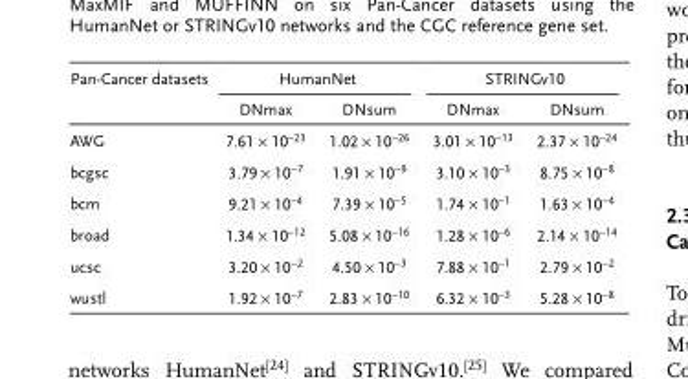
<table><thead><tr><td rowspan="2">Pan-Cancer datasets</td><td colspan="2">HumanNet</td><td colspan="2">STRINGv10</td></tr><tr><td>DNmax</td><td>DNsum</td><td>DNmax</td><td>DNsum</td></tr></thead><tbody><tr><td>AWG</td><td>7.61 × 10<sup>−23</sup></td><td>1.02 × 10<sup>−26</sup></td><td>3.01 × 10<sup>−13</sup></td><td>2.37 × 10<sup>−24</sup></td></tr><tr><td>bcgsc</td><td>3.79 × 10<sup>−7</sup></td><td>1.91 × 10<sup>−9</sup></td><td>3.10 × 10<sup>−3</sup></td><td>8.75 × 10<sup>−8</sup></td></tr><tr><td>bcm</td><td>9.21 × 10<sup>−4</sup></td><td>7.39 × 10<sup>−5</sup></td><td>1.74 × 10<sup>−1</sup></td><td>1.63 × 10<sup>−4</sup></td></tr><tr><td>broad</td><td>1.34 × 10<sup>−12</sup></td><td>5.08 × 10<sup>−16</sup></td><td>1.28 × 10<sup>−6</sup></td><td>2.14 × 10<sup>−14</sup></td></tr><tr><td>ucsc</td><td>3.20 × 10<sup>−2</sup></td><td>4.50 × 10<sup>−3</sup></td><td>7.88 × 10<sup>−1</sup></td><td>2.79 × 10<sup>−2</sup></td></tr><tr><td>wustl</td><td>1.92 × 10<sup>−7</sup></td><td>2.83 × 10<sup>−10</sup></td><td>6.32 × 10<sup>−3</sup></td><td>5.28 × 10<sup>−8</sup></td></tr></tbody></table>